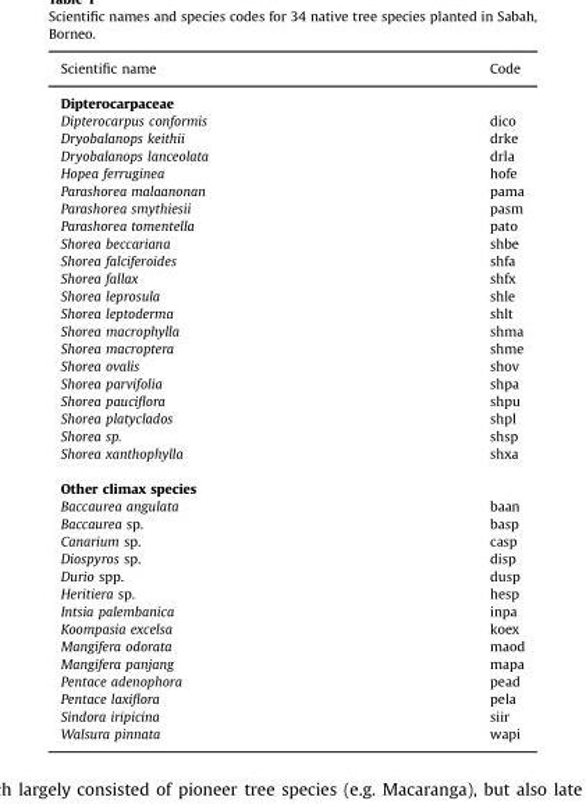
<table><tbody><tr><td>Scientific name</td><td>Code</td></tr><tr><td colspan="2">Dipterocarpaceae</td></tr><tr><td>Dipterocarpus conformis</td><td>dico</td></tr><tr><td>Dryobalanops keithii</td><td>drke</td></tr><tr><td>Dryobalanops lanceolata</td><td>drla</td></tr><tr><td>Hopea ferruginea</td><td>hofe</td></tr><tr><td>Parashorea malaanonan</td><td>pama</td></tr><tr><td>Parashorea smythiesii</td><td>pasm</td></tr><tr><td>Parashorea tomentella</td><td>pato</td></tr><tr><td>Shorea beccariana</td><td>shbe</td></tr><tr><td>Shorea falciferoides</td><td>shfa</td></tr><tr><td>Shorea fallax</td><td>shfx</td></tr><tr><td>Shorea leprosula</td><td>shle</td></tr><tr><td>Shorea leptoderma</td><td>shlt</td></tr><tr><td>Shorea macrophylla</td><td>shma</td></tr><tr><td>Shorea macroptera</td><td>shme</td></tr><tr><td>Shorea ovalis</td><td>shov</td></tr><tr><td>Shorea parvifolia</td><td>shpa</td></tr><tr><td>Shorea pauciflora</td><td>shpu</td></tr><tr><td>Shorea platyclados</td><td>shpl</td></tr><tr><td>Shorea sp.</td><td>shsp</td></tr><tr><td>Shorea xanthophylla</td><td>shxa</td></tr><tr><td colspan="2">Other climax species</td></tr><tr><td>Baccaurea angulata</td><td>baan</td></tr><tr><td>Baccaurea sp.</td><td>basp</td></tr><tr><td>Canarium sp.</td><td>casp</td></tr><tr><td>Diospyros sp.</td><td>disp</td></tr><tr><td>Durio spp.</td><td>dusp</td></tr><tr><td>Heritiera sp.</td><td>hesp</td></tr><tr><td>Intsia palembanica</td><td>inpa</td></tr><tr><td>Koompasia excelsa</td><td>koex</td></tr><tr><td>Mangifera odorata</td><td>maod</td></tr><tr><td>Mangifera panjang</td><td>mapa</td></tr><tr><td>Pentace adenophora</td><td>pead</td></tr><tr><td>Pentace laxiflora</td><td>pela</td></tr><tr><td>Sindora iripicina</td><td>siir</td></tr><tr><td>Walsura pinnata</td><td>wapi</td></tr></tbody></table>